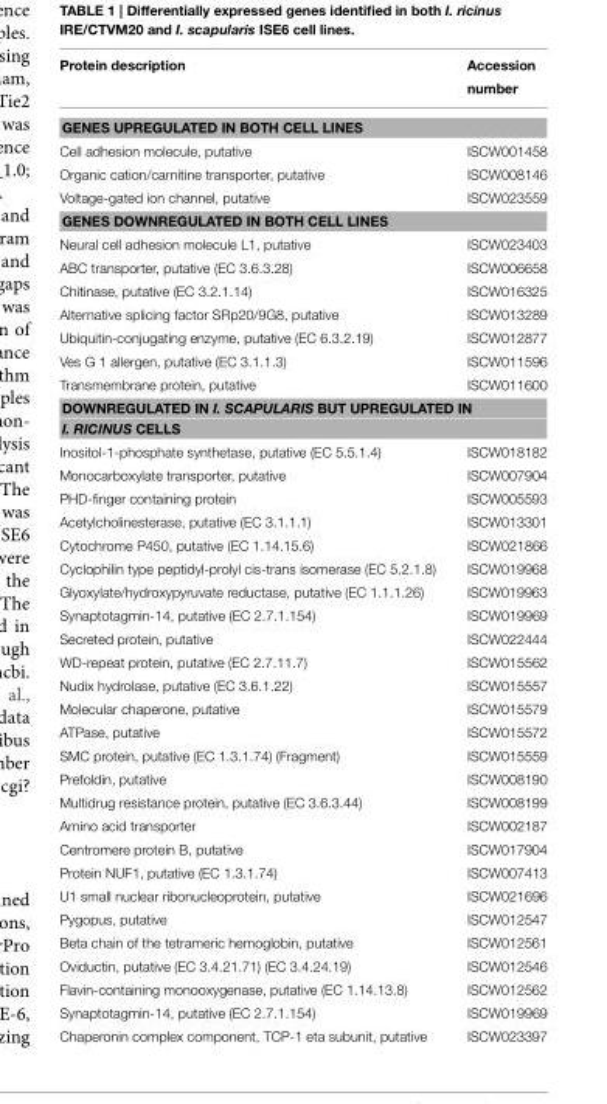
<table><thead><tr><td>Protein description</td><td>Accession number</td></tr></thead><tbody><tr><td colspan="2">GENES UPREGULATED IN BOTH CELL LINES</td></tr><tr><td>Cell adhesion molecule, putative</td><td>ISCW001458</td></tr><tr><td>Organic cation/carnitine transporter, putative</td><td>ISCW008146</td></tr><tr><td>Voltage-gated ion channel, putative</td><td>ISCW023559</td></tr><tr><td colspan="2">GENES DOWNREGULATED IN BOTH CELL LINES</td></tr><tr><td>Neural cell adhesion molecule L1, putative</td><td>ISCW023403</td></tr><tr><td>ABC transporter, putative (EC 3.6.3.28)</td><td>ISCW006658</td></tr><tr><td>Chitinase, putative (EC 3.2.1.14)</td><td>ISCW016325</td></tr><tr><td>Alternative splicing factor SRp20/9G8, putative</td><td>ISCW013289</td></tr><tr><td>Ubiquitin-conjugating enzyme, putative (EC 6.3.2.19)</td><td>ISCW012877</td></tr><tr><td>Ves G 1 allergen, putative (EC 3.1.1.3)</td><td>ISCW011596</td></tr><tr><td>Transmembrane protein, putative</td><td>ISCW011600</td></tr><tr><td colspan="2">DOWNREGULATED IN I. SCAPULARIS BUT UPREGULATED IN I. RICINUS CELLS</td></tr><tr><td>Inositol-1-phosphate synthetase, putative (EC 5.5.1.4)</td><td>ISCW018182</td></tr><tr><td>Monocarboxylate transporter, putative</td><td>ISCW007904</td></tr><tr><td>PHD-finger containing protein</td><td>ISCW005593</td></tr><tr><td>Acetylcholinesterase, putative (EC 3.1.1.1)</td><td>ISCW013301</td></tr><tr><td>Cytochrome P450, putative (EC 1.14.15.6)</td><td>ISCW021866</td></tr><tr><td>Cyclophilin type peptidyl-prolyl cis-trans isomerase (EC 5.2.1.8)</td><td>ISCW019968</td></tr><tr><td>Glyoxylate/hydroxypyruvate reductase, putative (EC 1.1.1.26)</td><td>ISCW019963</td></tr><tr><td>Synaptotagmin-14, putative (EC 2.7.1.154)</td><td>ISCW019969</td></tr><tr><td>Secreted protein, putative</td><td>ISCW022444</td></tr><tr><td>WD-repeat protein, putative (EC 2.7.11.7)</td><td>ISCW015562</td></tr><tr><td>Nudix hydrolase, putative (EC 3.6.1.22)</td><td>ISCW015557</td></tr><tr><td>Molecular chaperone, putative</td><td>ISCW015579</td></tr><tr><td>ATPase, putative</td><td>ISCW015572</td></tr><tr><td>SMC protein, putative (EC 1.3.1.74) (Fragment)</td><td>ISCW015559</td></tr><tr><td>Prefoldin, putative</td><td>ISCW008190</td></tr><tr><td>Multidrug resistance protein, putative (EC 3.6.3.44)</td><td>ISCW008199</td></tr><tr><td>Amino acid transporter</td><td>ISCW002187</td></tr><tr><td>Centromere protein B, putative</td><td>ISCW017904</td></tr><tr><td>Protein NUF1, putative (EC 1.3.1.74)</td><td>ISCW007413</td></tr><tr><td>U1 small nuclear ribonucleoprotein, putative</td><td>ISCW021696</td></tr><tr><td>Pygopus, putative</td><td>ISCW012547</td></tr><tr><td>Beta chain of the tetrameric hemoglobin, putative</td><td>ISCW012561</td></tr><tr><td>Oviductin, putative (EC 3.4.21.71) (EC 3.4.24.19)</td><td>ISCW012546</td></tr><tr><td>Flavin-containing monooxygenase, putative (EC 1.14.13.8)</td><td>ISCW012562</td></tr><tr><td>Synaptotagmin-14, putative (EC 2.7.1.154)</td><td>ISCW019969</td></tr><tr><td>Chaperonin complex component, TCP-1 eta subunit, putative</td><td>ISCW023397</td></tr></tbody></table>